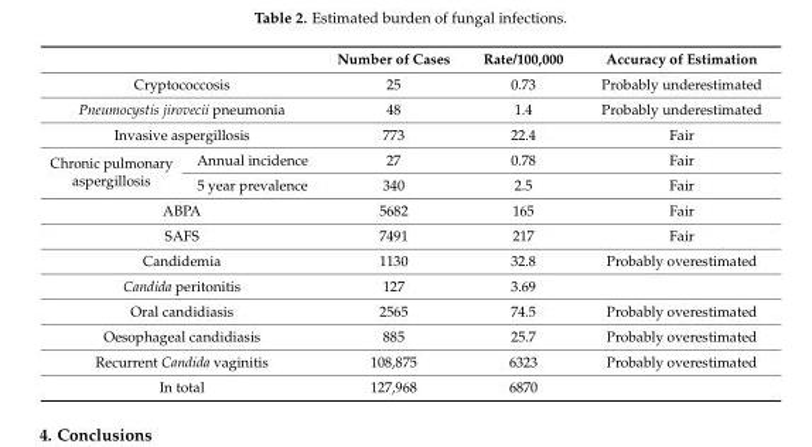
<table><thead><tr><td></td><td></td><td>Number of Cases</td><td>Rate/100,000</td><td>Accuracy of Estimation</td></tr></thead><tbody><tr><td colspan="2">Cryptococcosis</td><td>25</td><td>0.73</td><td>Probably underestimated</td></tr><tr><td colspan="2">Pneumocystis jirovecii pneumonia</td><td>48</td><td>1.4</td><td>Probably underestimated</td></tr><tr><td colspan="2">Invasive aspergillosis</td><td>773</td><td>22.4</td><td>Fair</td></tr><tr><td rowspan="2">Chronic pulmonary aspergillosis</td><td>Annual incidence</td><td>27</td><td>0.78</td><td>Fair</td></tr><tr><td>5 year prevalence</td><td>340</td><td>2.5</td><td>Fair</td></tr><tr><td colspan="2">ABPA</td><td>5682</td><td>165</td><td>Fair</td></tr><tr><td colspan="2">SAFS</td><td>7491</td><td>217</td><td>Fair</td></tr><tr><td colspan="2">Candidemia</td><td>1130</td><td>32.8</td><td>Probably overestimated</td></tr><tr><td colspan="2">Candida peritonitis</td><td>127</td><td>3.69</td><td></td></tr><tr><td colspan="2">Oral candidiasis</td><td>2565</td><td>74.5</td><td>Probably overestimated</td></tr><tr><td colspan="2">Oesophageal candidiasis</td><td>885</td><td>25.7</td><td>Probably overestimated</td></tr><tr><td colspan="2">Recurrent Candida vaginitis</td><td>108,875</td><td>6323</td><td>Probably overestimated</td></tr><tr><td colspan="2">In total</td><td>127,968</td><td>6870</td><td></td></tr></tbody></table>